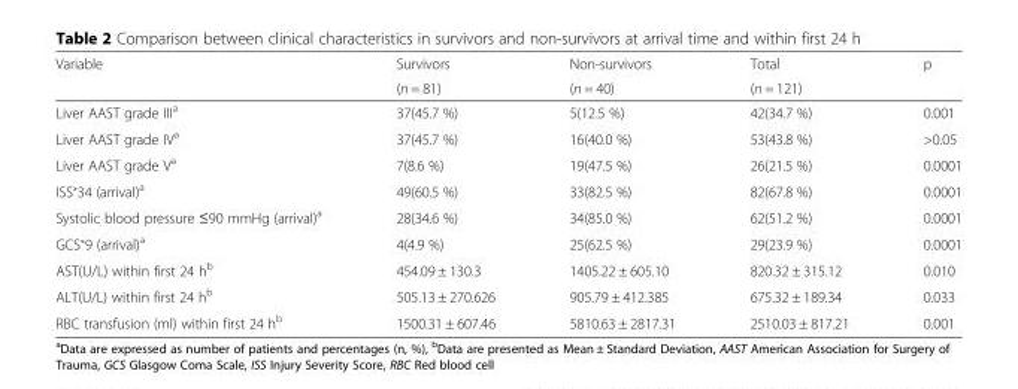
<table><thead><tr><td rowspan="2">Variable</td><td rowspan="2">Survivors (n = 81)</td><td rowspan="2">Non-survivors (n = 40)</td><td rowspan="2">Total (n = 121)</td><td rowspan="2">p</td></tr><tr></tr></thead><tbody><tr><td>Liver AAST grade III<sup>a</sup></td><td>37(45.7 %)</td><td>5(12.5 %)</td><td>42(34.7 %)</td><td>0.001</td></tr><tr><td>Liver AAST grade IV<sup>a</sup></td><td>37(45.7 %)</td><td>16(40.0 %)</td><td>53(43.8 %)</td><td>&gt;0.05</td></tr><tr><td>Liver AAST grade V<sup>a</sup></td><td>7(8.6 %)</td><td>19(47.5 %)</td><td>26(21.5 %)</td><td>0.0001</td></tr><tr><td>ISS˃34 (arrival)<sup>a</sup></td><td>49(60.5 %)</td><td>33(82.5 %)</td><td>82(67.8 %)</td><td>0.0001</td></tr><tr><td>Systolic blood pressure ≤90 mmHg (arrival)<sup>a</sup></td><td>28(34.6 %)</td><td>34(85.0 %)</td><td>62(51.2 %)</td><td>0.0001</td></tr><tr><td>GCS˂9 (arrival)<sup>a</sup></td><td>4(4.9 %)</td><td>25(62.5 %)</td><td>29(23.9 %)</td><td>0.0001</td></tr><tr><td>AST(U/L) within first 24 h<sup>b</sup></td><td>454.09 ± 130.3</td><td>1405.22 ± 605.10</td><td>820.32 ± 315.12</td><td>0.010</td></tr><tr><td>ALT(U/L) within first 24 h<sup>b</sup></td><td>505.13 ± 270.626</td><td>905.79 ± 412.385</td><td>675.32 ± 189.34</td><td>0.033</td></tr><tr><td>RBC transfusion (ml) within first 24 h<sup>b</sup></td><td>1500.31 ± 607.46</td><td>5810.63 ± 2817.31</td><td>2510.03 ± 817.21</td><td>0.001</td></tr></tbody></table>